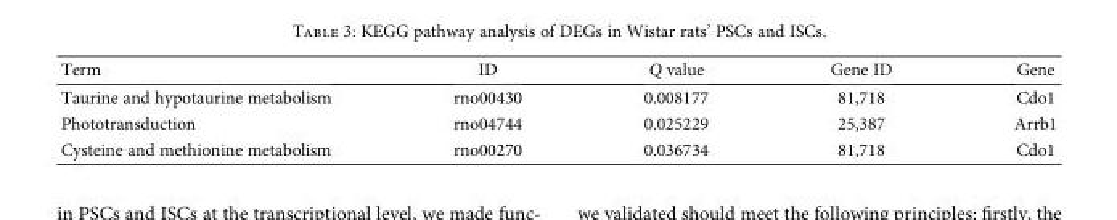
<table><thead><tr><td>Term</td><td>ID</td><td>Q value</td><td>Gene ID</td><td>Gene</td></tr></thead><tbody><tr><td>Taurine and hypotaurine metabolism</td><td>rno00430</td><td>0.008177</td><td>81,718</td><td>Cdo1</td></tr><tr><td>Phototransduction</td><td>rno04744</td><td>0.025229</td><td>25,387</td><td>Arrb1</td></tr><tr><td>Cysteine and methionine metabolism</td><td>rno00270</td><td>0.036734</td><td>81,718</td><td>Cdo1</td></tr></tbody></table>